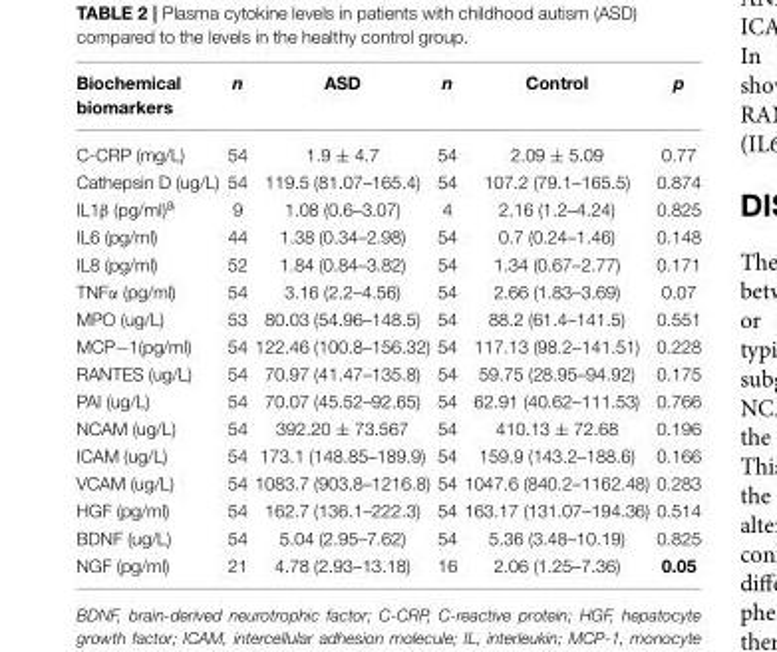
<table><thead><tr><td>Biochemical biomarkers</td><td>n</td><td>ASD</td><td>n</td><td>Control</td><td>p</td></tr></thead><tbody><tr><td>C-CRP (mg/L)</td><td>54</td><td>1.9 ± 4.7</td><td>54</td><td>2.09 ± 5.09</td><td>0.77</td></tr><tr><td>Cathepsin D (ug/L)</td><td>54</td><td>119.5 (81.07–165.4)</td><td>54</td><td>107.2 (79.1–165.5)</td><td>0.874</td></tr><tr><td>IL1β (pg/ml)<sup>a</sup></td><td>9</td><td>1.08 (0.6–3.07)</td><td>4</td><td>2.16 (1.2–4.24)</td><td>0.825</td></tr><tr><td>IL6 (pg/ml)</td><td>44</td><td>1.38 (0.34–2.98)</td><td>54</td><td>0.7 (0.24–1.46)</td><td>0.148</td></tr><tr><td>IL8 (pg/ml)</td><td>52</td><td>1.84 (0.84–3.82)</td><td>54</td><td>1.34 (0.67–2.77)</td><td>0.171</td></tr><tr><td>TNFα (pg/ml)</td><td>54</td><td>3.16 (2.2–4.56)</td><td>54</td><td>2.66 (1.83–3.69)</td><td>0.07</td></tr><tr><td>MPO (ug/L)</td><td>53</td><td>80.03 (54.96–148.5)</td><td>54</td><td>88.2 (61.4–141.5)</td><td>0.551</td></tr><tr><td>MCP−1(pg/ml)</td><td>54</td><td>122.46 (100.8–156.32)</td><td>54</td><td>117.13 (98.2–141.51)</td><td>0.228</td></tr><tr><td>RANTES (ug/L)</td><td>54</td><td>70.97 (41.47–135.8)</td><td>54</td><td>59.75 (28.95–94.92)</td><td>0.175</td></tr><tr><td>PAI (ug/L)</td><td>54</td><td>70.07 (45.52–92.65)</td><td>54</td><td>62.91 (40.62–111.53)</td><td>0.766</td></tr><tr><td>NCAM (ug/L)</td><td>54</td><td>392.20 ± 73.567</td><td>54</td><td>410.13 ± 72.68</td><td>0.196</td></tr><tr><td>ICAM (ug/L)</td><td>54</td><td>173.1 (148.85–189.9)</td><td>54</td><td>159.9 (143.2–188.6)</td><td>0.166</td></tr><tr><td>VCAM (ug/L)</td><td>54</td><td>1083.7 (903.8–1216.8)</td><td>54</td><td>1047.6 (840.2–1162.48)</td><td>0.283</td></tr><tr><td>HGF (pg/ml)</td><td>54</td><td>162.7 (136.1–222.3)</td><td>54</td><td>163.17 (131.07–194.36)</td><td>0.514</td></tr><tr><td>BDNF (ug/L)</td><td>54</td><td>5.04 (2.95–7.62)</td><td>54</td><td>5.36 (3.48–10.19)</td><td>0.825</td></tr><tr><td>NGF (pg/ml)</td><td>21</td><td>4.78 (2.93–13.18)</td><td>16</td><td>2.06 (1.25–7.36)</td><td>0.05</td></tr></tbody></table>